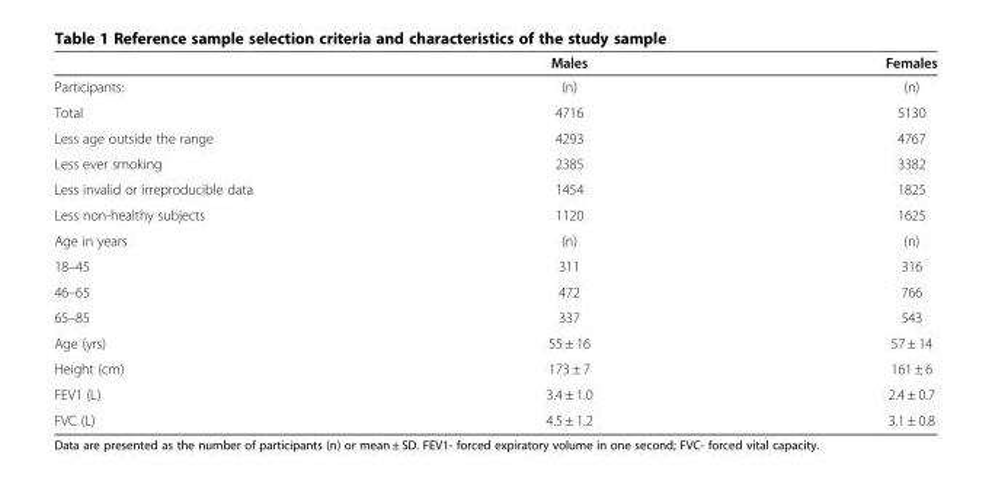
<table><thead><tr><td></td><td>Males</td><td>Females</td></tr></thead><tbody><tr><td>Participants:</td><td>(n)</td><td>(n)</td></tr><tr><td>Total</td><td>4716</td><td>5130</td></tr><tr><td>Less age outside the range</td><td>4293</td><td>4767</td></tr><tr><td>Less ever smoking</td><td>2385</td><td>3382</td></tr><tr><td>Less invalid or irreproducible data</td><td>1454</td><td>1825</td></tr><tr><td>Less non-healthy subjects</td><td>1120</td><td>1625</td></tr><tr><td>Age in years</td><td>(n)</td><td>(n)</td></tr><tr><td>18–45</td><td>311</td><td>316</td></tr><tr><td>46–65</td><td>472</td><td>766</td></tr><tr><td>65–85</td><td>337</td><td>543</td></tr><tr><td>Age (yrs)</td><td>55 ± 16</td><td>57 ± 14</td></tr><tr><td>Height (cm)</td><td>173 ± 7</td><td>161 ± 6</td></tr><tr><td>FEV1 (L)</td><td>3.4 ± 1.0</td><td>2.4 ± 0.7</td></tr><tr><td>FVC (L)</td><td>4.5 ± 1.2</td><td>3.1 ± 0.8</td></tr></tbody></table>